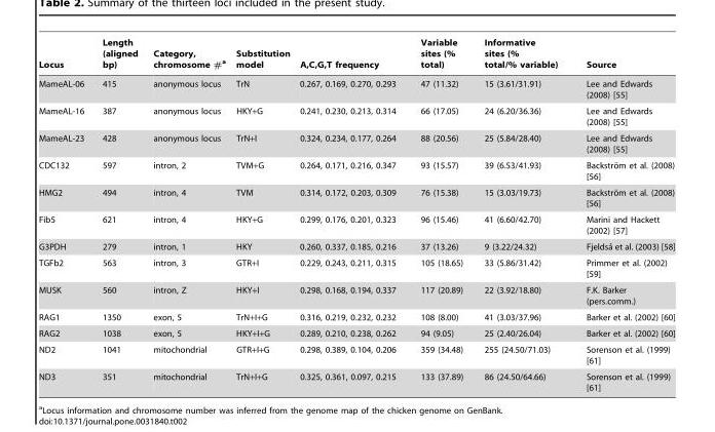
<table><thead><tr><td>Locus</td><td>Length (aligned bp)</td><td>Category, chromosome #<sup>a</sup></td><td>Substitution model</td><td>A,C,G,T frequency</td><td>Variable sites (% total)</td><td>Informative sites (% total/% variable)</td><td>Source</td></tr></thead><tbody><tr><td>MameAL-06</td><td>415</td><td>anonymous locus</td><td>TrN</td><td>0.267, 0.169, 0.270, 0.293</td><td>47 (11.32)</td><td>15 (3.61/31.91)</td><td>Lee and Edwards (2008) [55]</td></tr><tr><td>MameAL-16</td><td>387</td><td>anonymous locus</td><td>HKY+G</td><td>0.241, 0.230, 0.213, 0.314</td><td>66 (17.05)</td><td>24 (6.20/36.36)</td><td>Lee and Edwards (2008) [55]</td></tr><tr><td>MameAL-23</td><td>428</td><td>anonymous locus</td><td>TrN+I</td><td>0.324, 0.234, 0.177, 0.264</td><td>88 (20.56)</td><td>25 (5.84/28.40)</td><td>Lee and Edwards (2008) [55]</td></tr><tr><td>CDC132</td><td>597</td><td>intron, 2</td><td>TVM+G</td><td>0.264, 0.171, 0.216, 0.347</td><td>93 (15.57)</td><td>39 (6.53/41.93)</td><td>Backstro¨m et al. (2008) [56]</td></tr><tr><td>HMG2</td><td>494</td><td>intron, 4</td><td>TVM</td><td>0.314, 0.172, 0.203, 0.309</td><td>76 (15.38)</td><td>15 (3.03/19.73)</td><td>Backstro¨m et al. (2008) [56]</td></tr><tr><td>Fib5</td><td>621</td><td>intron, 4</td><td>HKY+G</td><td>0.299, 0.176, 0.201, 0.323</td><td>96 (15.46)</td><td>41 (6.60/42.70)</td><td>Marini and Hackett (2002) [57]</td></tr><tr><td>G3PDH</td><td>279</td><td>intron, 1</td><td>HKY</td><td>0.260, 0.337, 0.185, 0.216</td><td>37 (13.26)</td><td>9 (3.22/24.32)</td><td>Fjeldsa˚ et al. (2003) [58]</td></tr><tr><td>TGFb2</td><td>563</td><td>intron, 3</td><td>GTR+I</td><td>0.229, 0.243, 0.211, 0.315</td><td>105 (18.65)</td><td>33 (5.86/31.42)</td><td>Primmer et al. (2002) [59]</td></tr><tr><td>MUSK</td><td>560</td><td>intron, Z</td><td>HKY+I</td><td>0.298, 0.168, 0.194, 0.337</td><td>117 (20.89)</td><td>22 (3.92/18.80)</td><td>F.K. Barker (pers.comm.)</td></tr><tr><td>RAG1</td><td>1350</td><td>exon, 5</td><td>TrN+I+G</td><td>0.316, 0.219, 0.232, 0.232</td><td>108 (8.00)</td><td>41 (3.03/37.96)</td><td>Barker et al. (2002) [60]</td></tr><tr><td>RAG2</td><td>1038</td><td>exon, 5</td><td>HKY+I+G</td><td>0.289, 0.210, 0.238, 0.262</td><td>94 (9.05)</td><td>25 (2.40/26.04)</td><td>Barker et al. (2002) [60]</td></tr><tr><td>ND2</td><td>1041</td><td>mitochondrial</td><td>GTR+I+G</td><td>0.298, 0.389, 0.104, 0.206</td><td>359 (34.48)</td><td>255 (24.50/71.03)</td><td>Sorenson et al. (1999) [61]</td></tr><tr><td>ND3</td><td>351</td><td>mitochondrial</td><td>TrN+I+G</td><td>0.325, 0.361, 0.097, 0.215</td><td>133 (37.89)</td><td>86 (24.50/64.66)</td><td>Sorenson et al. (1999) [61]</td></tr></tbody></table>